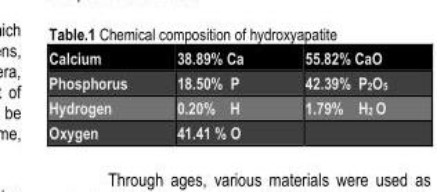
<table><tbody><tr><td>Calcium</td><td>38.89% Ca</td><td>55.82% CaO</td></tr><tr><td>Phosphorus</td><td>18.50% P</td><td>42.39% P2O5</td></tr><tr><td>Hydrogen</td><td>0.20% H</td><td>1.79% H2 O</td></tr><tr><td>Oxygen</td><td>41.41 % O</td><td></td></tr></tbody></table>